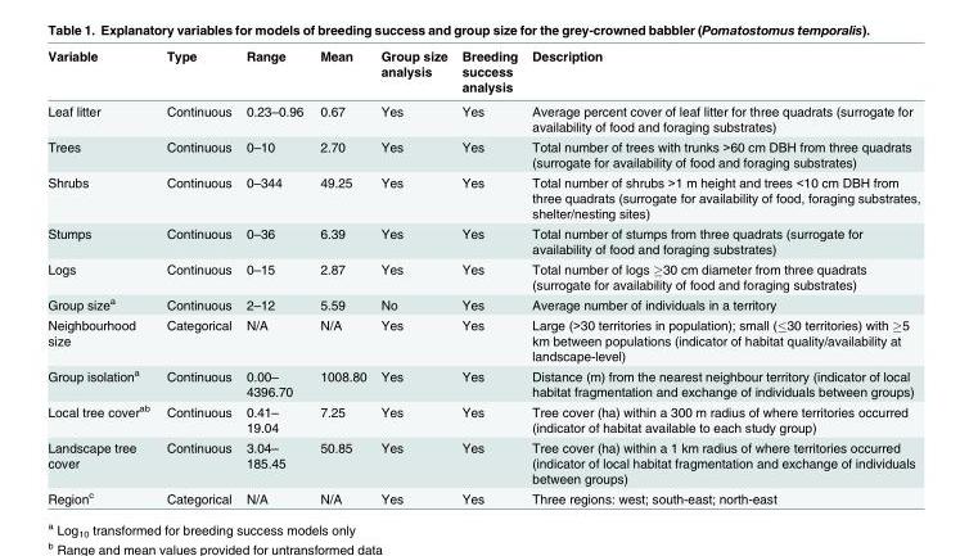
<table><thead><tr><td>Variable</td><td>Type</td><td>Range</td><td>Mean</td><td>Group size analysis</td><td>Breeding success analysis</td><td>Description</td></tr></thead><tbody><tr><td>Leaf litter</td><td>Continuous</td><td>0.23–0.96</td><td>0.67</td><td>Yes</td><td>Yes</td><td>Average percent cover of leaf litter for three quadrats (surrogate for availability of food and foraging substrates)</td></tr><tr><td>Trees</td><td>Continuous</td><td>0–10</td><td>2.70</td><td>Yes</td><td>Yes</td><td>Total number of trees with trunks &gt;60 cm DBH from three quadrats (surrogate for availability of food and foraging substrates)</td></tr><tr><td>Shrubs</td><td>Continuous</td><td>0–344</td><td>49.25</td><td>Yes</td><td>Yes</td><td>Total number of shrubs &gt;1 m height and trees &lt;10 cm DBH from three quadrats (surrogate for availability of food, foraging substrates, shelter/nesting sites)</td></tr><tr><td>Stumps</td><td>Continuous</td><td>0–36</td><td>6.39</td><td>Yes</td><td>Yes</td><td>Total number of stumps from three quadrats (surrogate for availability of food and foraging substrates)</td></tr><tr><td>Logs</td><td>Continuous</td><td>0–15</td><td>2.87</td><td>Yes</td><td>Yes</td><td>Total number of logs ≥30 cm diameter from three quadrats (surrogate for availability of food and foraging substrates)</td></tr><tr><td>Group size<sup>a</sup></td><td>Continuous</td><td>2–12</td><td>5.59</td><td>No</td><td>Yes</td><td>Average number of individuals in a territory</td></tr><tr><td>Neighbourhood size</td><td>Categorical</td><td>N/A</td><td>N/A</td><td>Yes</td><td>Yes</td><td>Large (&gt;30 territories in population); small (≤30 territories) with ≥5 km between populations (indicator of habitat quality/availability at landscape-level)</td></tr><tr><td>Group isolation<sup>a</sup></td><td>Continuous</td><td>0.00– 4396.70</td><td>1008.80</td><td>Yes</td><td>Yes</td><td>Distance (m) from the nearest neighbour territory (indicator of local habitat fragmentation and exchange of individuals between groups)</td></tr><tr><td>Local tree cover<sup>ab</sup></td><td>Continuous</td><td>0.41– 19.04</td><td>7.25</td><td>Yes</td><td>Yes</td><td>Tree cover (ha) within a 300 m radius of where territories occurred (indicator of habitat available to each study group)</td></tr><tr><td>Landscape tree cover</td><td>Continuous</td><td>3.04– 185.45</td><td>50.85</td><td>Yes</td><td>Yes</td><td>Tree cover (ha) within a 1 km radius of where territories occurred (indicator of local habitat fragmentation and exchange of individuals between groups)</td></tr><tr><td>Region<sup>c</sup></td><td>Categorical</td><td>N/A</td><td>N/A</td><td>Yes</td><td>Yes</td><td>Three regions: west; south-east; north-east</td></tr></tbody></table>